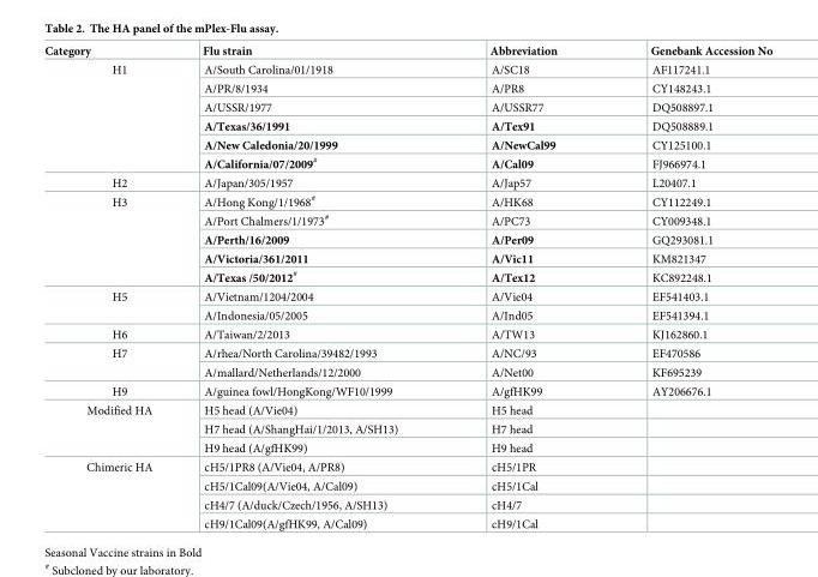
<table><thead><tr><td>Category</td><td>Flu strain</td><td>Abbreviation</td><td>Genebank Accession No</td></tr></thead><tbody><tr><td rowspan="6">H1</td><td>A/South Carolina/01/1918</td><td>A/SC18</td><td>AF117241.1</td></tr><tr><td>A/PR/8/1934</td><td>A/PR8</td><td>CY148243.1</td></tr><tr><td>A/USSR/1977</td><td>A/USSR77</td><td>DQ508897.1</td></tr><tr><td>A/Texas/36/1991</td><td>A/Tex91</td><td>DQ508889.1</td></tr><tr><td>A/New Caledonia/20/1999</td><td>A/NewCal99</td><td>CY125100.1</td></tr><tr><td>A/California/07/2009<sup>#</sup></td><td>A/Cal09</td><td>FJ966974.1</td></tr><tr><td>H2</td><td>A/Japan/305/1957</td><td>A/Jap57</td><td>L20407.1</td></tr><tr><td rowspan="5">H3</td><td>A/Hong Kong/1/1968<sup>#</sup></td><td>A/HK68</td><td>CY112249.1</td></tr><tr><td>A/Port Chalmers/1/1973<sup>#</sup></td><td>A/PC73</td><td>CY009348.1</td></tr><tr><td>A/Perth/16/2009</td><td>A/Per09</td><td>GQ293081.1</td></tr><tr><td>A/Victoria/361/2011</td><td>A/Vic11</td><td>KM821347</td></tr><tr><td>A/Texas /50/2012<sup>#</sup></td><td>A/Tex12</td><td>KC892248.1</td></tr><tr><td rowspan="2">H5</td><td>A/Vietnam/1204/2004</td><td>A/Vie04</td><td>EF541403.1</td></tr><tr><td>A/Indonesia/05/2005</td><td>A/Ind05</td><td>EF541394.1</td></tr><tr><td>H6</td><td>A/Taiwan/2/2013</td><td>A/TW13</td><td>KJ162860.1</td></tr><tr><td rowspan="2">H7</td><td>A/rhea/North Carolina/39482/1993</td><td>A/NC/93</td><td>EF470586</td></tr><tr><td>A/mallard/Netherlands/12/2000</td><td>A/Net00</td><td>KF695239</td></tr><tr><td>H9</td><td>A/guinea fowl/HongKong/WF10/1999</td><td>A/gfHK99</td><td>AY206676.1</td></tr><tr><td rowspan="3">Modified HA</td><td>H5 head (A/Vie04)</td><td>H5 head</td><td></td></tr><tr><td>H7 head (A/ShangHai/1/2013, A/SH13)</td><td>H7 head</td><td></td></tr><tr><td>H9 head (A/gfHK99)</td><td>H9 head</td><td></td></tr><tr><td rowspan="4">Chimeric HA</td><td>cH5/1PR8 (A/Vie04, A/PR8)</td><td>cH5/1PR</td><td></td></tr><tr><td>cH5/1Cal09(A/Vie04, A/Cal09)</td><td>cH5/1Cal</td><td></td></tr><tr><td>cH4/7 (A/duck/Czech/1956, A/SH13)</td><td>cH4/7</td><td></td></tr><tr><td>cH9/1Cal09(A/gfHK99, A/Cal09)</td><td>cH9/1Cal</td><td></td></tr></tbody></table>